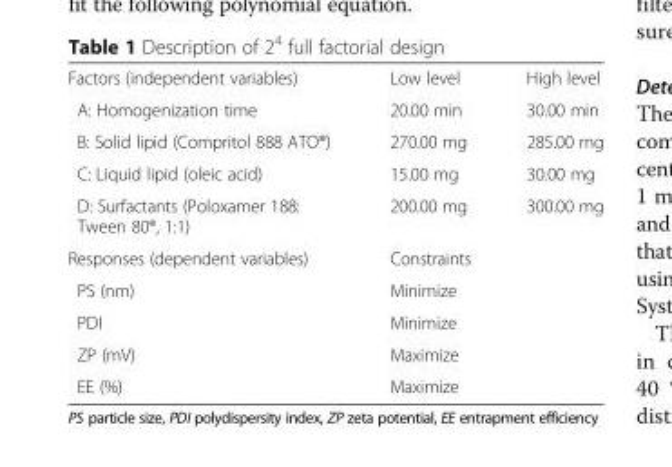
<table><tbody><tr><td>Factors (independent variables)</td><td>Low level</td><td>High level</td></tr><tr><td>A: Homogenization time</td><td>20.00 min</td><td>30.00 min</td></tr><tr><td>B: Solid lipid (Compritol 888 ATO®)</td><td>270.00 mg</td><td>285.00 mg</td></tr><tr><td>C: Liquid lipid (oleic acid)</td><td>15.00 mg</td><td>30.00 mg</td></tr><tr><td>D: Surfactants (Poloxamer 188: Tween 80®, 1:1)</td><td>200.00 mg</td><td>300.00 mg</td></tr><tr><td>Responses (dependent variables)</td><td colspan="2">Constraints</td></tr><tr><td>PS (nm)</td><td colspan="2">Minimize</td></tr><tr><td>PDI</td><td colspan="2">Minimize</td></tr><tr><td>ZP (mV)</td><td colspan="2">Maximize</td></tr><tr><td>EE (%)</td><td colspan="2">Maximize</td></tr></tbody></table>